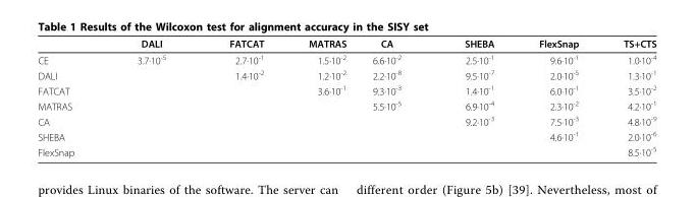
<table><thead><tr><td></td><td>DALI</td><td>FATCAT</td><td>MATRAS</td><td>CA</td><td>SHEBA</td><td>FlexSnap</td><td>TS+CTS</td></tr></thead><tbody><tr><td>CE</td><td>3.7·10<sup>-5</sup></td><td>2.7·10<sup>-1</sup></td><td>1.5·10<sup>-2</sup></td><td>6.6·10<sup>-2</sup></td><td>2.5·10<sup>-1</sup></td><td>9.6·10<sup>-1</sup></td><td>1.0·10<sup>-4</sup></td></tr><tr><td>DALI</td><td></td><td>1.4·10<sup>-2</sup></td><td>1.2·10<sup>-2</sup></td><td>2.2·10<sup>-8</sup></td><td>9.5·10<sup>-7</sup></td><td>2.0·10<sup>-5</sup></td><td>1.3·10<sup>-1</sup></td></tr><tr><td>FATCAT</td><td></td><td></td><td>3.6·10<sup>-1</sup></td><td>9.3·10<sup>-3</sup></td><td>1.4·10<sup>-1</sup></td><td>6.0·10<sup>-1</sup></td><td>3.5·10<sup>-2</sup></td></tr><tr><td>MATRAS</td><td></td><td></td><td></td><td>5.5·10<sup>-5</sup></td><td>6.9·10<sup>-4</sup></td><td>2.3·10<sup>-2</sup></td><td>4.2·10<sup>-1</sup></td></tr><tr><td>CA</td><td></td><td></td><td></td><td></td><td>9.2·10<sup>-3</sup></td><td>7.5·10<sup>-3</sup></td><td>4.8·10<sup>-9</sup></td></tr><tr><td>SHEBA</td><td></td><td></td><td></td><td></td><td></td><td>4.6·10<sup>-1</sup></td><td>2.0·10<sup>-6</sup></td></tr><tr><td>FlexSnap</td><td></td><td></td><td></td><td></td><td></td><td></td><td>8.5·10<sup>-5</sup></td></tr></tbody></table>